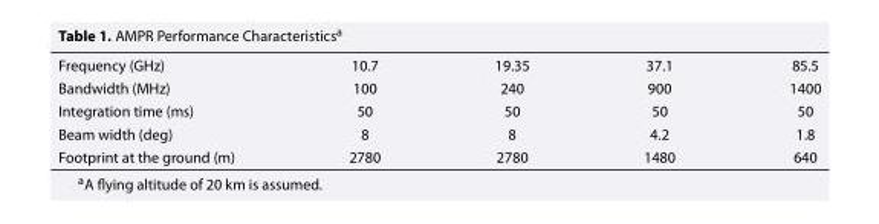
<table><thead><tr><td>Frequency (GHz)</td><td>10.7</td><td>19.35</td><td>37.1</td><td>85.5</td></tr></thead><tbody><tr><td>Bandwidth (MHz)</td><td>100</td><td>240</td><td>900</td><td>1400</td></tr><tr><td>Integration time (ms)</td><td>50</td><td>50</td><td>50</td><td>50</td></tr><tr><td>Beam width (deg)</td><td>8</td><td>8</td><td>4.2</td><td>1.8</td></tr><tr><td>Footprint at the ground (m)</td><td>2780</td><td>2780</td><td>1480</td><td>640</td></tr></tbody></table>